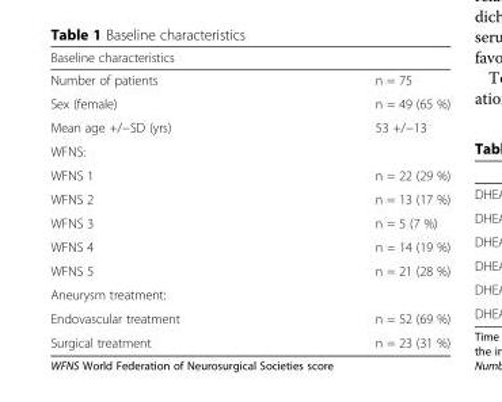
<table><thead><tr><td>Baseline characteristics</td><td></td></tr></thead><tbody><tr><td>Number of patients</td><td>n = 75</td></tr><tr><td>Sex (female)</td><td>n = 49 (65 %)</td></tr><tr><td>Mean age +/−SD (yrs)</td><td>53 +/−13</td></tr><tr><td colspan="2">WFNS:</td></tr><tr><td>WFNS 1</td><td>n = 22 (29 %)</td></tr><tr><td>WFNS 2</td><td>n = 13 (17 %)</td></tr><tr><td>WFNS 3</td><td>n = 5 (7 %)</td></tr><tr><td>WFNS 4</td><td>n = 14 (19 %)</td></tr><tr><td>WFNS 5</td><td>n = 21 (28 %)</td></tr><tr><td colspan="2">Aneurysm treatment:</td></tr><tr><td>Endovascular treatment</td><td>n = 52 (69 %)</td></tr><tr><td>Surgical treatment</td><td>n = 23 (31 %)</td></tr></tbody></table>